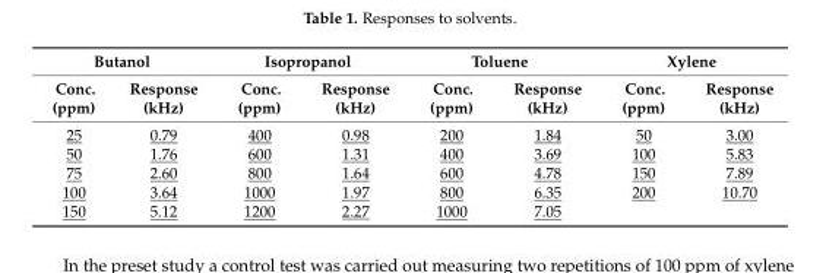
<table><thead><tr><td colspan="2">Butanol</td><td colspan="2">Isopropanol</td><td colspan="2">Toluene</td><td colspan="2">Xylene</td></tr><tr><td>Conc. (ppm)</td><td>Response (kHz)</td><td>Conc. (ppm)</td><td>Response (kHz)</td><td>Conc. (ppm)</td><td>Response (kHz)</td><td>Conc. (ppm)</td><td>Response (kHz)</td></tr></thead><tbody><tr><td>25</td><td>0.79</td><td>400</td><td>0.98</td><td>200</td><td>1.84</td><td>50</td><td>3.00</td></tr><tr><td>50</td><td>1.76</td><td>600</td><td>1.31</td><td>400</td><td>3.69</td><td>100</td><td>5.83</td></tr><tr><td>75</td><td>2.60</td><td>800</td><td>1.64</td><td>600</td><td>4.78</td><td>150</td><td>7.89</td></tr><tr><td>100</td><td>3.64</td><td>1000</td><td>1.97</td><td>800</td><td>6.35</td><td>200</td><td>10.70</td></tr><tr><td>150</td><td>5.12</td><td>1200</td><td>2.27</td><td>1000</td><td>7.05</td><td></td><td></td></tr></tbody></table>